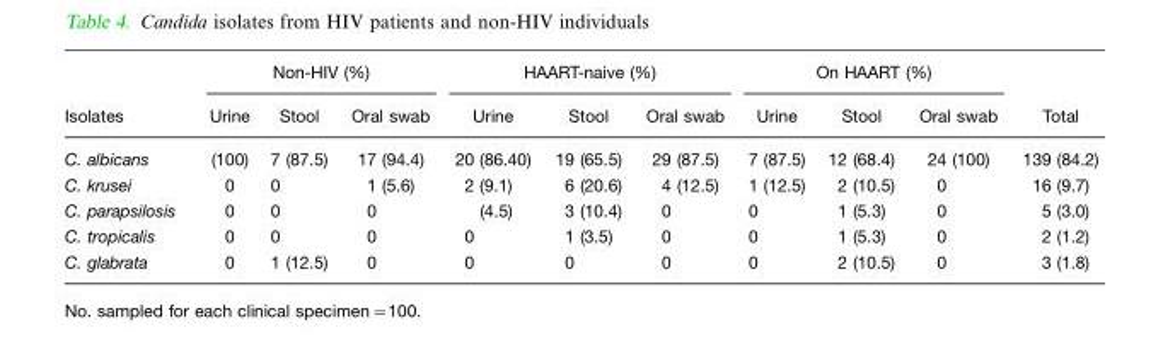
<table><thead><tr><td rowspan="2">Isolates</td><td colspan="3">Non-HIV (%)</td><td colspan="3">HAART-naive (%)</td><td colspan="3">On HAART (%)</td><td rowspan="2">Total</td></tr><tr><td>Urine</td><td>Stool</td><td>Oral swab</td><td>Urine</td><td>Stool</td><td>Oral swab</td><td>Urine</td><td>Stool</td><td>Oral swab</td></tr></thead><tbody><tr><td>C. albicans</td><td>(100)</td><td>7 (87.5)</td><td>17 (94.4)</td><td>20 (86.40)</td><td>19 (65.5)</td><td>29 (87.5)</td><td>7 (87.5)</td><td>12 (68.4)</td><td>24 (100)</td><td>139 (84.2)</td></tr><tr><td>C. krusei</td><td>0</td><td>0</td><td>1 (5.6)</td><td>2 (9.1)</td><td>6 (20.6)</td><td>4 (12.5)</td><td>1 (12.5)</td><td>2 (10.5)</td><td>0</td><td>16 (9.7)</td></tr><tr><td>C. parapsilosis</td><td>0</td><td>0</td><td>0</td><td>(4.5)</td><td>3 (10.4)</td><td>0</td><td>0</td><td>1 (5.3)</td><td>0</td><td>5 (3.0)</td></tr><tr><td>C. tropicalis</td><td>0</td><td>0</td><td>0</td><td>0</td><td>1 (3.5)</td><td>0</td><td>0</td><td>1 (5.3)</td><td>0</td><td>2 (1.2)</td></tr><tr><td>C. glabrata</td><td>0</td><td>1 (12.5)</td><td>0</td><td>0</td><td>0</td><td>0</td><td>0</td><td>2 (10.5)</td><td>0</td><td>3 (1.8)</td></tr></tbody></table>